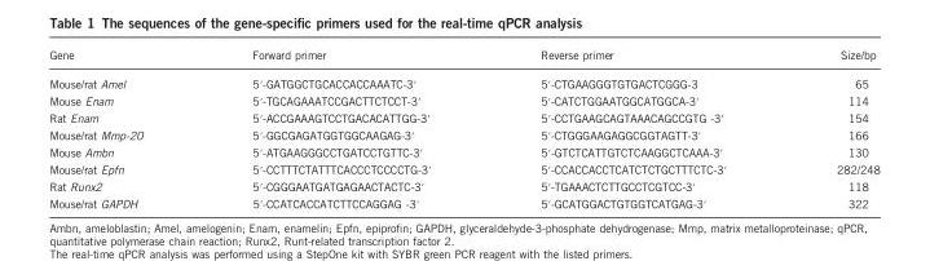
<table><thead><tr><td>Gene</td><td>Forward primer</td><td>Reverse primer</td><td>Size/bp</td></tr></thead><tbody><tr><td>Mouse/rat Amel</td><td>5′-GATGGCTGCACCACCAAATC-3′</td><td>5′-CTGAAGGGTGTGACTCGGG-3</td><td>65</td></tr><tr><td>Mouse Enam</td><td>5′-TGCAGAAATCCGACTTCTCCT-3′</td><td>5′-CATCTGGAATGGCATGGCA-3′</td><td>114</td></tr><tr><td>Rat Enam</td><td>5′-ACCGAAAGTCCTGACACATTGG-3′</td><td>5′-CCTGAAGCAGTAAACAGCCGTG -3′</td><td>154</td></tr><tr><td>Mouse/rat Mmp-20</td><td>5′-GGCGAGATGGTGGCAAGAG-3′</td><td>5′-CTGGGAAGAGGCGGTAGTT-3′</td><td>166</td></tr><tr><td>Mouse Ambn</td><td>5′-ATGAAGGGCCTGATCCTGTTC-3′</td><td>5′-GTCTCATTGTCTCAAGGCTCAAA-3′</td><td>130</td></tr><tr><td>Mouse/rat Epfn</td><td>5′-CCTTTCTATTTCACCCTCCCCTG-3′</td><td>5′-CCACCACCTCATCTCTGCTTTCTC-3′</td><td>282/248</td></tr><tr><td>Rat Runx2</td><td>5′-CGGGAATGATGAGAACTACTC-3′</td><td>5′-TGAAACTCTTGCCTCGTCC-3′</td><td>118</td></tr><tr><td>Mouse/rat GAPDH</td><td>5′-CCATCACCATCTTCCAGGAG -3′</td><td>5′-GCATGGACTGTGGTCATGAG-3′</td><td>322</td></tr></tbody></table>